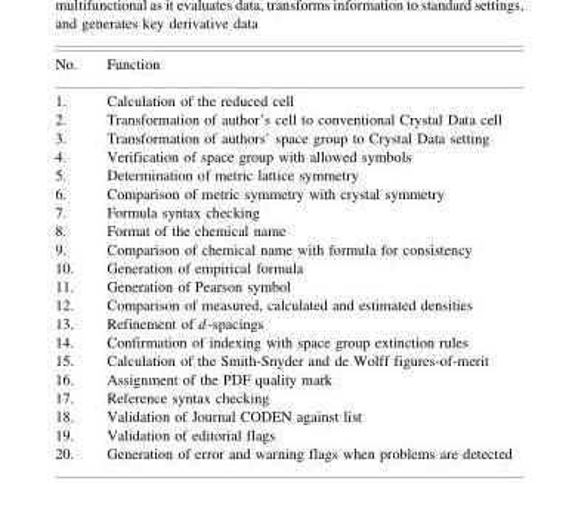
<table><thead><tr><td>No.</td><td>Function</td></tr></thead><tbody><tr><td>1.</td><td>Calculation of the reduced cell</td></tr><tr><td>2.</td><td>Transformation of author’s cell to conventional Crystal Data cell</td></tr><tr><td>3.</td><td>Transformation of authors’ space group to Crystal Data setting</td></tr><tr><td>4.</td><td>Verification of space group with allowed symbols</td></tr><tr><td>5.</td><td>Determination of metric lattice symmetry</td></tr><tr><td>6.</td><td>Comparison of metric symmetry with crystal symmetry</td></tr><tr><td>7.</td><td>Formula syntax checking</td></tr><tr><td>8.</td><td>Format of the chemical name</td></tr><tr><td>9.</td><td>Comparison of chemical name with formula for consistency</td></tr><tr><td>10.</td><td>Generation of empirical formula</td></tr><tr><td>11.</td><td>Generation of Pearson symbol</td></tr><tr><td>12.</td><td>Comparison of measured, calculated and estimated densities</td></tr><tr><td>13.</td><td>Refinement of d-spacings</td></tr><tr><td>14.</td><td>Confirmation of indexing with space group extinction rules</td></tr><tr><td>15.</td><td>Calculation of the Smith-Snyder and de Wolff figures-of-merit</td></tr><tr><td>16.</td><td>Assignment of the PDF quality mark</td></tr><tr><td>17.</td><td>Reference syntax checking</td></tr><tr><td>18.</td><td>Validation of Journal CODEN against list</td></tr><tr><td>19.</td><td>Validation of editorial flags</td></tr><tr><td>20.</td><td>Generation of error and warning flags when problems are detected</td></tr></tbody></table>